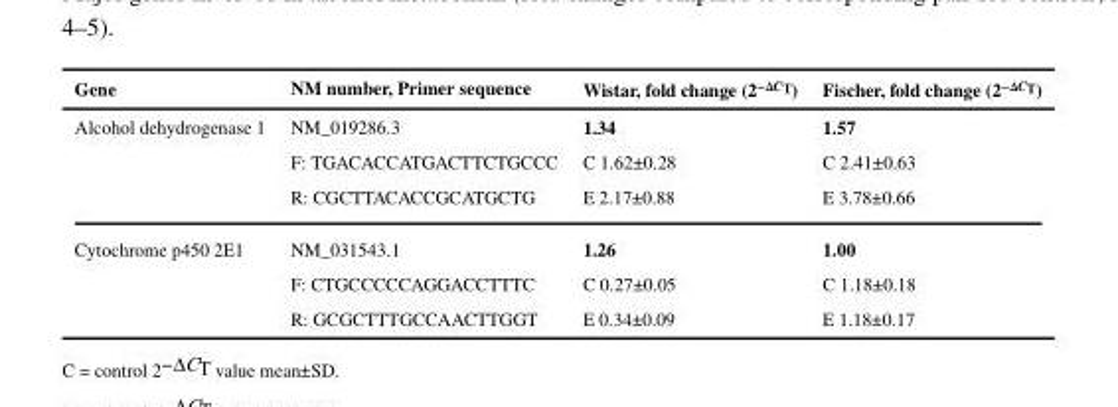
<table><thead><tr><td>Gene</td><td>NM number, Primer sequence</td><td>Wistar, fold change (2<sup>−ΔC<sub>T</sub></sup>)</td><td>Fischer, fold change (2<sup>−ΔC<sub>T</sub></sup>)</td></tr></thead><tbody><tr><td rowspan="3">Alcohol dehydrogenase 1</td><td>NM_019286.3</td><td>1.34</td><td>1.57</td></tr><tr><td>F: TGACACCATGACTTCTGCCC</td><td>C 1.62±0.28</td><td>C 2.41±0.63</td></tr><tr><td>R: CGCTTACACCGCATGCTG</td><td>E 2.17±0.88</td><td>E 3.78±0.66</td></tr><tr><td rowspan="3">Cytochrome p450 2E1</td><td>NM_031543.1</td><td>1.26</td><td>1.00</td></tr><tr><td>F: CTGCCCCCAGGACCTTTC</td><td>C 0.27±0.05</td><td>C 1.18±0.18</td></tr><tr><td>R: GCGCTTTGCCAACTTGGT</td><td>E 0.34±0.09</td><td>E 1.18±0.17</td></tr></tbody></table>